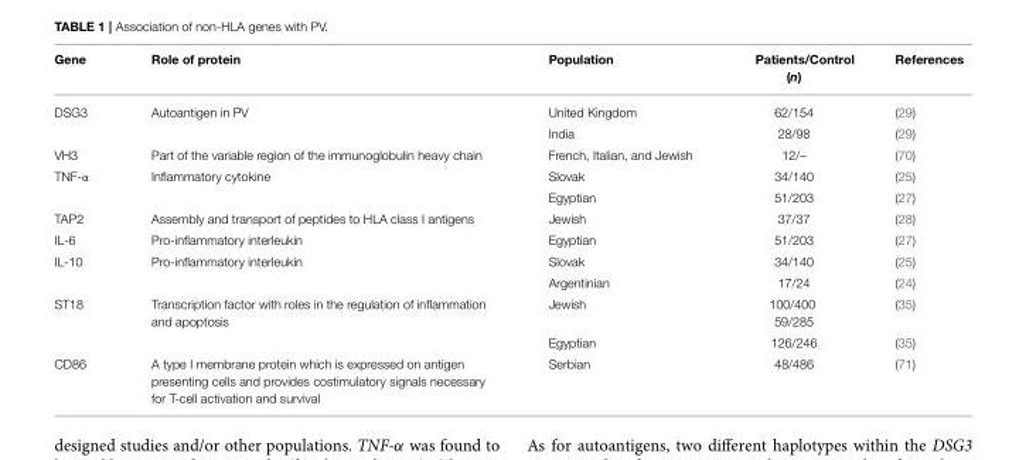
<table><thead><tr><td>Gene</td><td>Role of protein</td><td>Population</td><td>Patients/Control (n)</td><td>References</td></tr></thead><tbody><tr><td rowspan="2">DSG3</td><td>Autoantigen in PV</td><td>United Kingdom</td><td>62/154</td><td>(29)</td></tr><tr><td></td><td>India</td><td>28/98</td><td>(29)</td></tr><tr><td>VH3</td><td>Part of the variable region of the immunoglobulin heavy chain</td><td>French, Italian, and Jewish</td><td>12/–</td><td>(70)</td></tr><tr><td rowspan="2">TNF-α</td><td>Inflammatory cytokine</td><td>Slovak</td><td>34/140</td><td>(25)</td></tr><tr><td></td><td>Egyptian</td><td>51/203</td><td>(27)</td></tr><tr><td>TAP2</td><td>Assembly and transport of peptides to HLA class I antigens</td><td>Jewish</td><td>37/37</td><td>(28)</td></tr><tr><td>IL-6</td><td>Pro-inflammatory interleukin</td><td>Egyptian</td><td>51/203</td><td>(27)</td></tr><tr><td rowspan="2">IL-10</td><td>Pro-inflammatory interleukin</td><td>Slovak</td><td>34/140</td><td>(25)</td></tr><tr><td></td><td>Argentinian</td><td>17/24</td><td>(24)</td></tr><tr><td rowspan="2">ST18</td><td>Transcription factor with roles in the regulation of inflammation and apoptosis</td><td>Jewish</td><td>100/400 59/285</td><td>(35)</td></tr><tr><td></td><td>Egyptian</td><td>126/246</td><td>(35)</td></tr><tr><td>CD86</td><td>A type I membrane protein which is expressed on antigen presenting cells and provides costimulatory signals necessary for T-cell activation and survival</td><td>Serbian</td><td>48/486</td><td>(71)</td></tr></tbody></table>